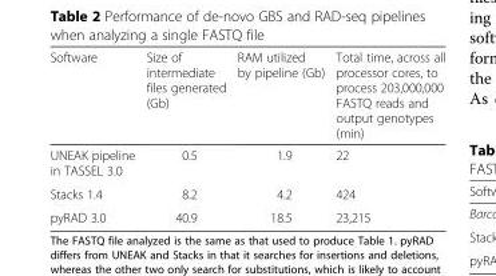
<table><thead><tr><td>Software</td><td>Size of intermediate files generated (Gb)</td><td>RAM utilized by pipeline (Gb)</td><td>Total time, across all processor cores, to process 203,000,000 FASTQ reads and output genotypes (min)</td></tr></thead><tbody><tr><td>UNEAK pipeline in TASSEL 3.0</td><td>0.5</td><td>1.9</td><td>22</td></tr><tr><td>Stacks 1.4</td><td>8.2</td><td>4.2</td><td>424</td></tr><tr><td>pyRAD 3.0</td><td>40.9</td><td>18.5</td><td>23,215</td></tr></tbody></table>